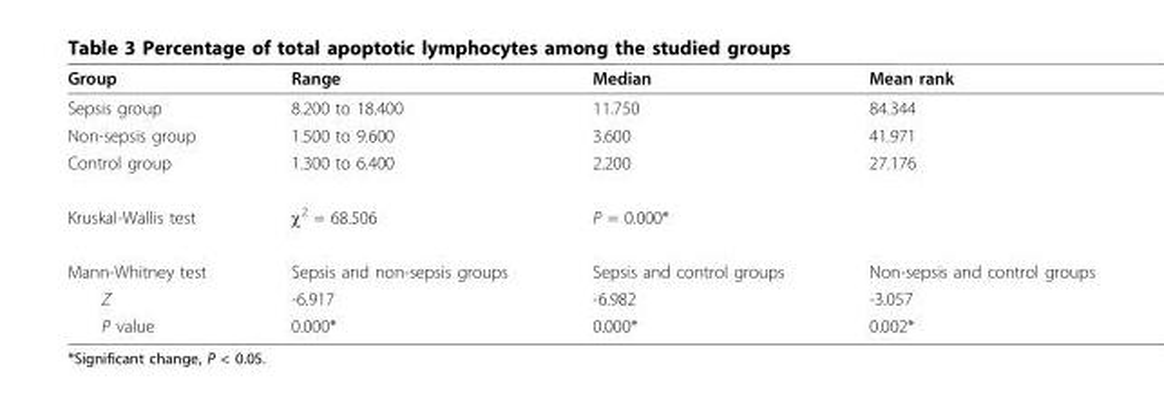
<table><thead><tr><td>Group</td><td>Range</td><td>Median</td><td>Mean rank</td></tr></thead><tbody><tr><td>Sepsis group</td><td>8.200 to 18.400</td><td>11.750</td><td>84.344</td></tr><tr><td>Non-sepsis group</td><td>1.500 to 9.600</td><td>3.600</td><td>41.971</td></tr><tr><td>Control group</td><td>1.300 to 6.400</td><td>2.200</td><td>27.176</td></tr><tr><td>Kruskal-Wallis test</td><td>χ<sup>2</sup> = 68.506</td><td>P = 0.000*</td><td></td></tr><tr><td>Mann-Whitney test</td><td>Sepsis and non-sepsis groups</td><td>Sepsis and control groups</td><td>Non-sepsis and control groups</td></tr><tr><td>Z</td><td>-6.917</td><td>-6.982</td><td>-3.057</td></tr><tr><td>P value</td><td>0.000*</td><td>0.000*</td><td>0.002*</td></tr></tbody></table>